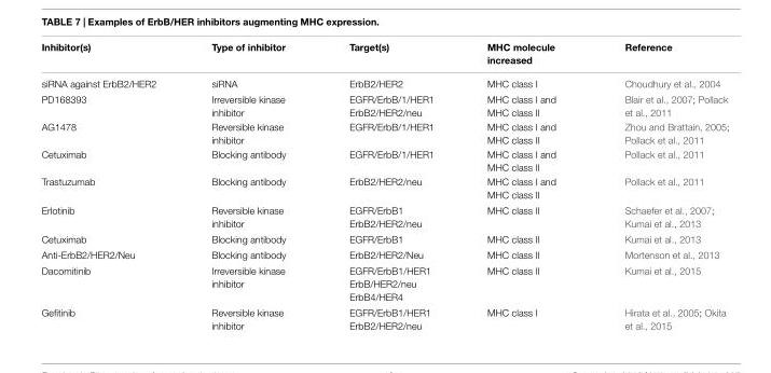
<table><thead><tr><td>Inhibitor(s)</td><td>Type of inhibitor</td><td>Target(s)</td><td>MHC molecule increased</td><td>Reference</td></tr></thead><tbody><tr><td>siRNA against ErbB2/HER2</td><td>siRNA</td><td>ErbB2/HER2</td><td>MHC class I</td><td>Choudhury et al., 2004</td></tr><tr><td>PD168393</td><td>Irreversible kinase inhibitor</td><td>EGFR/ErbB/1/HER1 ErbB2/HER2/neu</td><td>MHC class I and MHC class II</td><td>Blair et al., 2007; Pollack et al., 2011</td></tr><tr><td>AG1478</td><td>Reversible kinase inhibitor</td><td>EGFR/ErbB/1/HER1</td><td>MHC class I and MHC class II</td><td>Zhou and Brattain, 2005; Pollack et al., 2011</td></tr><tr><td>Cetuximab</td><td>Blocking antibody</td><td>EGFR/ErbB/1/HER1</td><td>MHC class I and MHC class II</td><td>Pollack et al., 2011</td></tr><tr><td>Trastuzumab</td><td>Blocking antibody</td><td>ErbB2/HER2/neu</td><td>MHC class I and MHC class II</td><td>Pollack et al., 2011</td></tr><tr><td>Erlotinib</td><td>Reversible kinase inhibitor</td><td>EGFR/ErbB1 ErbB2/HER2/neu</td><td>MHC class II</td><td>Schaefer et al., 2007; Kumai et al., 2013</td></tr><tr><td>Cetuximab</td><td>Blocking antibody</td><td>EGFR/ErbB1</td><td>MHC class II</td><td>Kumai et al., 2013</td></tr><tr><td>Anti-ErbB2/HER2/Neu</td><td>Blocking antibody</td><td>ErbB2/HER2/Neu</td><td>MHC class II</td><td>Mortenson et al., 2013</td></tr><tr><td>Dacomitinib</td><td>Irreversible kinase inhibitor</td><td>EGFR/ErbB1/HER1 ErbB/HER2/neu ErbB4/HER4</td><td>MHC class II</td><td>Kumai et al., 2015</td></tr><tr><td>Gefitinib</td><td>Reversible kinase inhibitor</td><td>EGFR/ErbB1/HER1 ErbB2/HER2/neu</td><td>MHC class I</td><td>Hirata et al., 2005; Okita et al., 2015</td></tr></tbody></table>